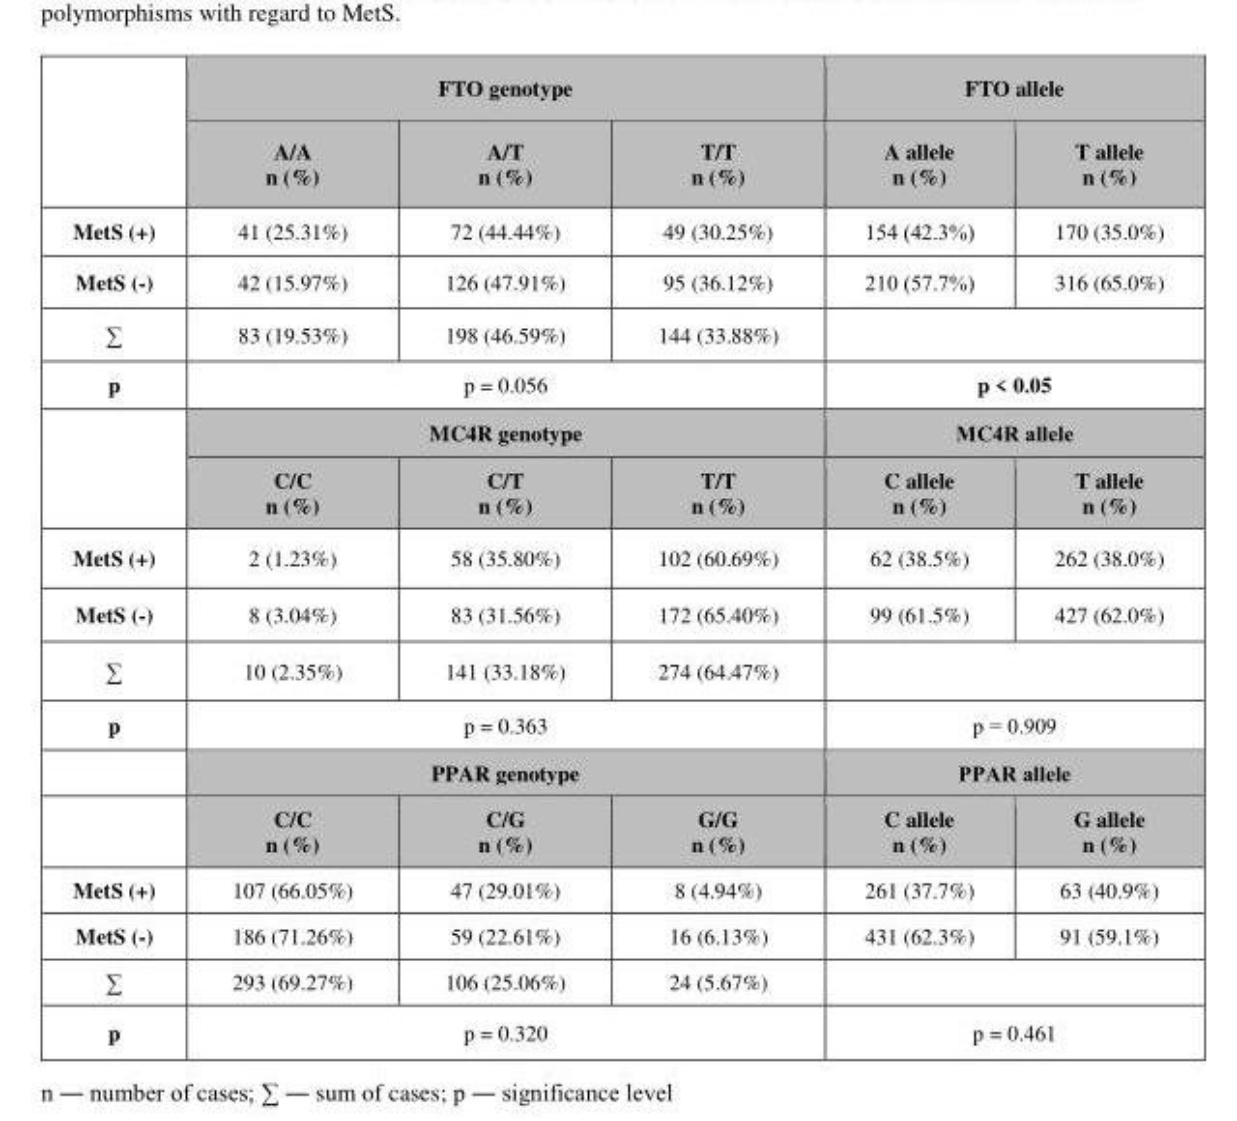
<table><thead><tr><td rowspan="2"></td><td colspan="3">FTO genotype</td><td colspan="2">FTO allele</td></tr><tr><td>A/A n (%)</td><td>A/T n (%)</td><td>T/T n (%)</td><td>A allele n (%)</td><td>T allele n (%)</td></tr></thead><tbody><tr><td>MetS (+)</td><td>41 (25.31%)</td><td>72 (44.44%)</td><td>49 (30.25%)</td><td>154 (42.3%)</td><td>170 (35.0%)</td></tr><tr><td>MetS (-)</td><td>42 (15.97%)</td><td>126 (47.91%)</td><td>95 (36.12%)</td><td>210 (57.7%)</td><td>316 (65.0%)</td></tr><tr><td>∑</td><td>83 (19.53%)</td><td>198 (46.59%)</td><td>144 (33.88%)</td><td colspan="2"></td></tr><tr><td rowspan="3">p</td><td colspan="3">p = 0.056</td><td colspan="2">p &lt; 0.05</td></tr><tr><td colspan="3">MC4R genotype</td><td colspan="2">MC4R allele</td></tr><tr><td>C/C n (%)</td><td>C/T n (%)</td><td>T/T n (%)</td><td>C allele n (%)</td><td>T allele n (%)</td></tr><tr><td>MetS (+)</td><td>2 (1.23%)</td><td>58 (35.80%)</td><td>102 (60.69%)</td><td>62 (38.5%)</td><td>262 (38.0%)</td></tr><tr><td>MetS (-)</td><td>8 (3.04%)</td><td>83 (31.56%)</td><td>172 (65.40%)</td><td>99 (61.5%)</td><td>427 (62.0%)</td></tr><tr><td>∑</td><td>10 (2.35%)</td><td>141 (33.18%)</td><td>274 (64.47%)</td><td colspan="2"></td></tr><tr><td rowspan="3">p</td><td colspan="3">p = 0.363</td><td colspan="2">p = 0.909</td></tr><tr><td colspan="3">PPAR genotype</td><td colspan="2">PPAR allele</td></tr><tr><td>C/C n (%)</td><td>C/G n (%)</td><td>G/G n (%)</td><td>C allele n (%)</td><td>G allele n (%)</td></tr><tr><td>MetS (+)</td><td>107 (66.05%)</td><td>47 (29.01%)</td><td>8 (4.94%)</td><td>261 (37.7%)</td><td>63 (40.9%)</td></tr><tr><td>MetS (-)</td><td>186 (71.26%)</td><td>59 (22.61%)</td><td>16 (6.13%)</td><td>431 (62.3%)</td><td>91 (59.1%)</td></tr><tr><td>∑</td><td>293 (69.27%)</td><td>106 (25.06%)</td><td>24 (5.67%)</td><td colspan="2"></td></tr><tr><td>p</td><td colspan="3">p = 0.320</td><td colspan="2">p = 0.461</td></tr></tbody></table>